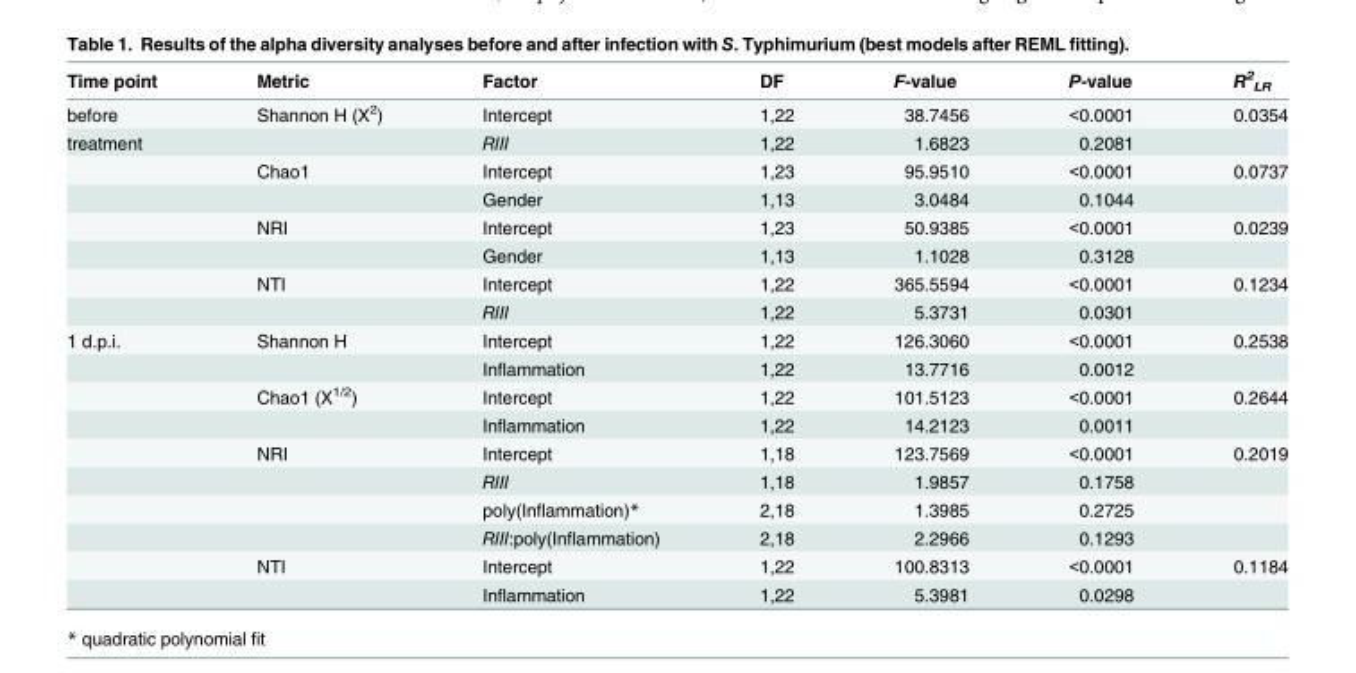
<table><thead><tr><td>Time point</td><td>Metric</td><td>Factor</td><td>DF</td><td>F-value</td><td>P-value</td><td>R<sup>2</sup> <sub>LR</sub></td></tr></thead><tbody><tr><td>before</td><td>Shannon H (X<sup>2</sup>)</td><td>Intercept</td><td>1,22</td><td>38.7456</td><td>&lt;0.0001</td><td>0.0354</td></tr><tr><td rowspan="7">treatment</td><td></td><td>RIII</td><td>1,22</td><td>1.6823</td><td>0.2081</td><td></td></tr><tr><td>Chao1</td><td>Intercept</td><td>1,23</td><td>95.9510</td><td>&lt;0.0001</td><td>0.0737</td></tr><tr><td></td><td>Gender</td><td>1,13</td><td>3.0484</td><td>0.1044</td><td></td></tr><tr><td>NRI</td><td>Intercept</td><td>1,23</td><td>50.9385</td><td>&lt;0.0001</td><td>0.0239</td></tr><tr><td></td><td>Gender</td><td>1,13</td><td>1.1028</td><td>0.3128</td><td></td></tr><tr><td>NTI</td><td>Intercept</td><td>1,22</td><td>365.5594</td><td>&lt;0.0001</td><td>0.1234</td></tr><tr><td></td><td>RIII</td><td>1,22</td><td>5.3731</td><td>0.0301</td><td></td></tr><tr><td rowspan="10">1 d.p.i.</td><td>Shannon H</td><td>Intercept</td><td>1,22</td><td>126.3060</td><td>&lt;0.0001</td><td>0.2538</td></tr><tr><td></td><td>Inflammation</td><td>1,22</td><td>13.7716</td><td>0.0012</td><td></td></tr><tr><td>Chao1 (X<sup>1/2</sup>)</td><td>Intercept</td><td>1,22</td><td>101.5123</td><td>&lt;0.0001</td><td>0.2644</td></tr><tr><td></td><td>Inflammation</td><td>1,22</td><td>14.2123</td><td>0.0011</td><td></td></tr><tr><td>NRI</td><td>Intercept</td><td>1,18</td><td>123.7569</td><td>&lt;0.0001</td><td>0.2019</td></tr><tr><td></td><td>RIII</td><td>1,18</td><td>1.9857</td><td>0.1758</td><td></td></tr><tr><td></td><td>poly(Inflammation)*</td><td>2,18</td><td>1.3985</td><td>0.2725</td><td></td></tr><tr><td></td><td>RIII:poly(Inflammation)</td><td>2,18</td><td>2.2966</td><td>0.1293</td><td></td></tr><tr><td>NTI</td><td>Intercept</td><td>1,22</td><td>100.8313</td><td>&lt;0.0001</td><td>0.1184</td></tr><tr><td></td><td>Inflammation</td><td>1,22</td><td>5.3981</td><td>0.0298</td><td></td></tr></tbody></table>